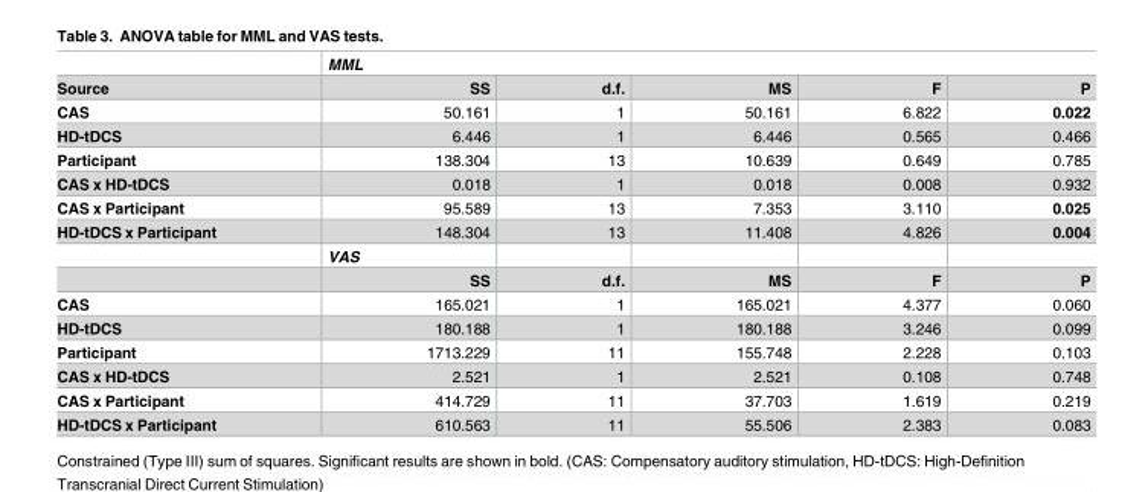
<table><thead><tr><td rowspan="2">Source</td><td colspan="5">MML</td></tr><tr><td>SS</td><td>d.f.</td><td>MS</td><td>F</td><td>P</td></tr></thead><tbody><tr><td>CAS</td><td>50.161</td><td>1</td><td>50.161</td><td>6.822</td><td>0.022</td></tr><tr><td>HD-tDCS</td><td>6.446</td><td>1</td><td>6.446</td><td>0.565</td><td>0.466</td></tr><tr><td>Participant</td><td>138.304</td><td>13</td><td>10.639</td><td>0.649</td><td>0.785</td></tr><tr><td>CAS x HD-tDCS</td><td>0.018</td><td>1</td><td>0.018</td><td>0.008</td><td>0.932</td></tr><tr><td>CAS x Participant</td><td>95.589</td><td>13</td><td>7.353</td><td>3.110</td><td>0.025</td></tr><tr><td rowspan="3">HD-tDCS x Participant</td><td>148.304</td><td>13</td><td>11.408</td><td>4.826</td><td>0.004</td></tr><tr><td>VAS</td><td></td><td></td><td></td><td></td></tr><tr><td>SS</td><td>d.f.</td><td>MS</td><td>F</td><td>P</td></tr><tr><td>CAS</td><td>165.021</td><td>1</td><td>165.021</td><td>4.377</td><td>0.060</td></tr><tr><td>HD-tDCS</td><td>180.188</td><td>1</td><td>180.188</td><td>3.246</td><td>0.099</td></tr><tr><td>Participant</td><td>1713.229</td><td>11</td><td>155.748</td><td>2.228</td><td>0.103</td></tr><tr><td>CAS x HD-tDCS</td><td>2.521</td><td>1</td><td>2.521</td><td>0.108</td><td>0.748</td></tr><tr><td>CAS x Participant</td><td>414.729</td><td>11</td><td>37.703</td><td>1.619</td><td>0.219</td></tr><tr><td>HD-tDCS x Participant</td><td>610.563</td><td>11</td><td>55.506</td><td>2.383</td><td>0.083</td></tr></tbody></table>